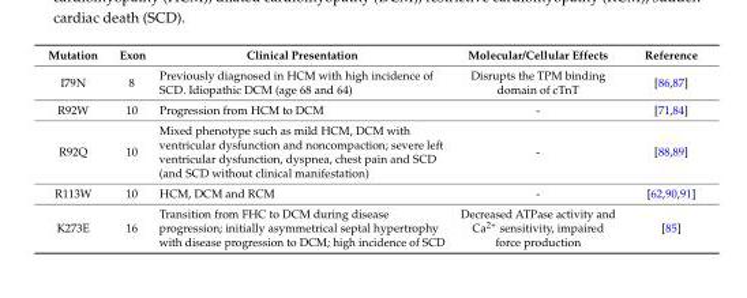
<table><thead><tr><td>Mutation</td><td>Exon</td><td>Clinical Presentation</td><td>Molecular/Cellular Effects</td><td>Reference</td></tr></thead><tbody><tr><td>I79N</td><td>8</td><td>Previously diagnosed in HCM with high incidence of SCD. Idiopathic DCM (age 68 and 64)</td><td>Disrupts the TPM binding domain of cTnT</td><td>[86,87]</td></tr><tr><td>R92W</td><td>10</td><td>Progression from HCM to DCM</td><td>-</td><td>[71,84]</td></tr><tr><td>R92Q</td><td>10</td><td>Mixed phenotype such as mild HCM, DCM with ventricular dysfunction and noncompaction; severe left ventricular dysfunction, dyspnea, chest pain and SCD (and SCD without clinical manifestation)</td><td>-</td><td>[88,89]</td></tr><tr><td>R113W</td><td>10</td><td>HCM, DCM and RCM</td><td>-</td><td>[62,90,91]</td></tr><tr><td>K273E</td><td>16</td><td>Transition from FHC to DCM during disease progression; initially asymmetrical septal hypertrophy with disease progression to DCM; high incidence of SCD</td><td>Decreased ATPase activity and Ca<sup>2+</sup> sensitivity, impaired force production</td><td>[85]</td></tr></tbody></table>